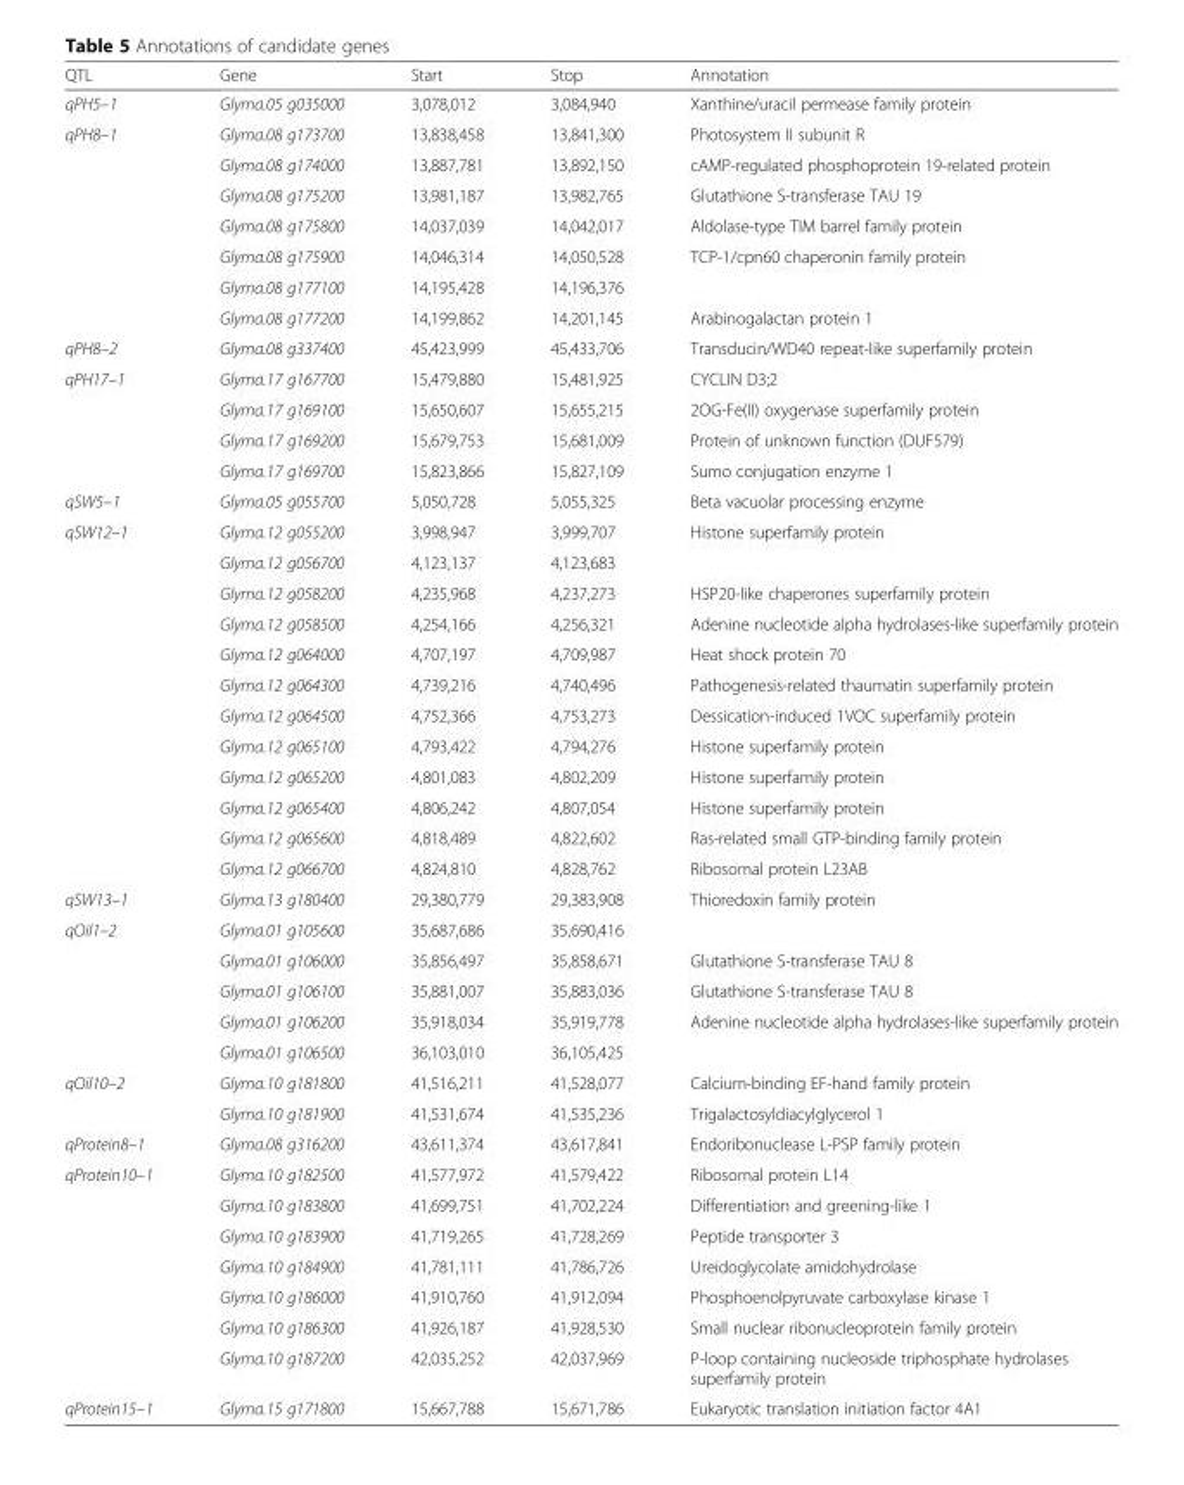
<table><thead><tr><td>QTL</td><td>Gene</td><td>Start</td><td>Stop</td><td>Annotation</td></tr></thead><tbody><tr><td>qPH5–1</td><td>Glyma.05 g035000</td><td>3,078,012</td><td>3,084,940</td><td>Xanthine/uracil permease family protein</td></tr><tr><td rowspan="7">qPH8–1</td><td>Glyma.08 g173700</td><td>13,838,458</td><td>13,841,300</td><td>Photosystem II subunit R</td></tr><tr><td>Glyma.08 g174000</td><td>13,887,781</td><td>13,892,150</td><td>cAMP-regulated phosphoprotein 19-related protein</td></tr><tr><td>Glyma.08 g175200</td><td>13,981,187</td><td>13,982,765</td><td>Glutathione S-transferase TAU 19</td></tr><tr><td>Glyma.08 g175800</td><td>14,037,039</td><td>14,042,017</td><td>Aldolase-type TIM barrel family protein</td></tr><tr><td>Glyma.08 g175900</td><td>14,046,314</td><td>14,050,528</td><td>TCP-1/cpn60 chaperonin family protein</td></tr><tr><td>Glyma.08 g177100</td><td>14,195,428</td><td>14,196,376</td><td></td></tr><tr><td>Glyma.08 g177200</td><td>14,199,862</td><td>14,201,145</td><td>Arabinogalactan protein 1</td></tr><tr><td>qPH8–2</td><td>Glyma.08 g337400</td><td>45,423,999</td><td>45,433,706</td><td>Transducin/WD40 repeat-like superfamily protein</td></tr><tr><td rowspan="4">qPH17–1</td><td>Glyma.17 g167700</td><td>15,479,880</td><td>15,481,925</td><td>CYCLIN D3;2</td></tr><tr><td>Glyma.17 g169100</td><td>15,650,607</td><td>15,655,215</td><td>2OG-Fe(II) oxygenase superfamily protein</td></tr><tr><td>Glyma.17 g169200</td><td>15,679,753</td><td>15,681,009</td><td>Protein of unknown function (DUF579)</td></tr><tr><td>Glyma.17 g169700</td><td>15,823,866</td><td>15,827,109</td><td>Sumo conjugation enzyme 1</td></tr><tr><td>qSW5–1</td><td>Glyma.05 g055700</td><td>5,050,728</td><td>5,055,325</td><td>Beta vacuolar processing enzyme</td></tr><tr><td rowspan="12">qSW12–1</td><td>Glyma.12 g055200</td><td>3,998,947</td><td>3,999,707</td><td>Histone superfamily protein</td></tr><tr><td>Glyma.12 g056700</td><td>4,123,137</td><td>4,123,683</td><td></td></tr><tr><td>Glyma.12 g058200</td><td>4,235,968</td><td>4,237,273</td><td>HSP20-like chaperones superfamily protein</td></tr><tr><td>Glyma.12 g058500</td><td>4,254,166</td><td>4,256,321</td><td>Adenine nucleotide alpha hydrolases-like superfamily protein</td></tr><tr><td>Glyma.12 g064000</td><td>4,707,197</td><td>4,709,987</td><td>Heat shock protein 70</td></tr><tr><td>Glyma.12 g064300</td><td>4,739,216</td><td>4,740,496</td><td>Pathogenesis-related thaumatin superfamily protein</td></tr><tr><td>Glyma.12 g064500</td><td>4,752,366</td><td>4,753,273</td><td>Dessication-induced 1VOC superfamily protein</td></tr><tr><td>Glyma.12 g065100</td><td>4,793,422</td><td>4,794,276</td><td>Histone superfamily protein</td></tr><tr><td>Glyma.12 g065200</td><td>4,801,083</td><td>4,802,209</td><td>Histone superfamily protein</td></tr><tr><td>Glyma.12 g065400</td><td>4,806,242</td><td>4,807,054</td><td>Histone superfamily protein</td></tr><tr><td>Glyma.12 g065600</td><td>4,818,489</td><td>4,822,602</td><td>Ras-related small GTP-binding family protein</td></tr><tr><td>Glyma.12 g066700</td><td>4,824,810</td><td>4,828,762</td><td>Ribosomal protein L23AB</td></tr><tr><td>qSW13–1</td><td>Glyma.13 g180400</td><td>29,380,779</td><td>29,383,908</td><td>Thioredoxin family protein</td></tr><tr><td rowspan="5">qOil1–2</td><td>Glyma.01 g105600</td><td>35,687,686</td><td>35,690,416</td><td></td></tr><tr><td>Glyma.01 g106000</td><td>35,856,497</td><td>35,858,671</td><td>Glutathione S-transferase TAU 8</td></tr><tr><td>Glyma.01 g106100</td><td>35,881,007</td><td>35,883,036</td><td>Glutathione S-transferase TAU 8</td></tr><tr><td>Glyma.01 g106200</td><td>35,918,034</td><td>35,919,778</td><td>Adenine nucleotide alpha hydrolases-like superfamily protein</td></tr><tr><td>Glyma.01 g106500</td><td>36,103,010</td><td>36,105,425</td><td></td></tr><tr><td rowspan="2">qOil10–2</td><td>Glyma.10 g181800</td><td>41,516,211</td><td>41,528,077</td><td>Calcium-binding EF-hand family protein</td></tr><tr><td>Glyma.10 g181900</td><td>41,531,674</td><td>41,535,236</td><td>Trigalactosyldiacylglycerol 1</td></tr><tr><td>qProtein8–1</td><td>Glyma.08 g316200</td><td>43,611,374</td><td>43,617,841</td><td>Endoribonuclease L-PSP family protein</td></tr><tr><td rowspan="7">qProtein10–1</td><td>Glyma.10 g182500</td><td>41,577,972</td><td>41,579,422</td><td>Ribosomal protein L14</td></tr><tr><td>Glyma.10 g183800</td><td>41,699,751</td><td>41,702,224</td><td>Differentiation and greening-like 1</td></tr><tr><td>Glyma.10 g183900</td><td>41,719,265</td><td>41,728,269</td><td>Peptide transporter 3</td></tr><tr><td>Glyma.10 g184900</td><td>41,781,111</td><td>41,786,726</td><td>Ureidoglycolate amidohydrolase</td></tr><tr><td>Glyma.10 g186000</td><td>41,910,760</td><td>41,912,094</td><td>Phosphoenolpyruvate carboxylase kinase 1</td></tr><tr><td>Glyma.10 g186300</td><td>41,926,187</td><td>41,928,530</td><td>Small nuclear ribonucleoprotein family protein</td></tr><tr><td>Glyma.10 g187200</td><td>42,035,252</td><td>42,037,969</td><td>P-loop containing nucleoside triphosphate hydrolases superfamily protein</td></tr><tr><td>qProtein15–1</td><td>Glyma.15 g171800</td><td>15,667,788</td><td>15,671,786</td><td>Eukaryotic translation initiation factor 4A1</td></tr></tbody></table>